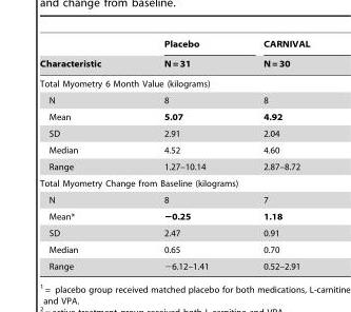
<table><thead><tr><td rowspan="2">Characteristic</td><td rowspan="2">Placebo N = 31</td><td rowspan="2">CARNIVAL N = 30</td></tr><tr></tr></thead><tbody><tr><td colspan="3">Total Myometry 6 Month Value (kilograms)</td></tr><tr><td>N</td><td>8</td><td>8</td></tr><tr><td>Mean</td><td>5.07</td><td>4.92</td></tr><tr><td>SD</td><td>2.91</td><td>2.04</td></tr><tr><td>Median</td><td>4.52</td><td>4.60</td></tr><tr><td>Range</td><td>1.27–10.14</td><td>2.87–8.72</td></tr><tr><td colspan="3">Total Myometry Change from Baseline (kilograms)</td></tr><tr><td>N</td><td>8</td><td>7</td></tr><tr><td>Mean*</td><td>−0.25</td><td>1.18</td></tr><tr><td>SD</td><td>2.47</td><td>0.91</td></tr><tr><td>Median</td><td>0.65</td><td>0.70</td></tr><tr><td>Range</td><td>−6.12–1.41</td><td>0.52–2.91</td></tr></tbody></table>